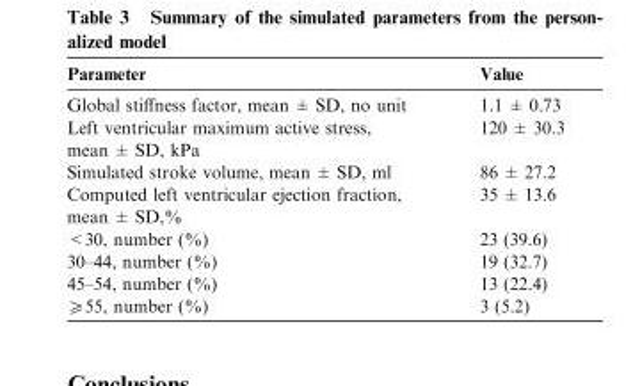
<table><thead><tr><td>Parameter</td><td>Value</td></tr></thead><tbody><tr><td>Global stiffness factor, mean ± SD, no unit</td><td>1.1 ± 0.73</td></tr><tr><td>Left ventricular maximum active stress, mean ± SD, kPa</td><td>120 ± 30.3</td></tr><tr><td>Simulated stroke volume, mean ± SD, ml</td><td>86 ± 27.2</td></tr><tr><td>Computed left ventricular ejection fraction, mean ± SD,%</td><td>35 ± 13.6</td></tr><tr><td>&lt;30, number (%)</td><td>23 (39.6)</td></tr><tr><td>30–44, number (%)</td><td>19 (32.7)</td></tr><tr><td>45–54, number (%)</td><td>13 (22.4)</td></tr><tr><td>⩾55, number (%)</td><td>3 (5.2)</td></tr></tbody></table>